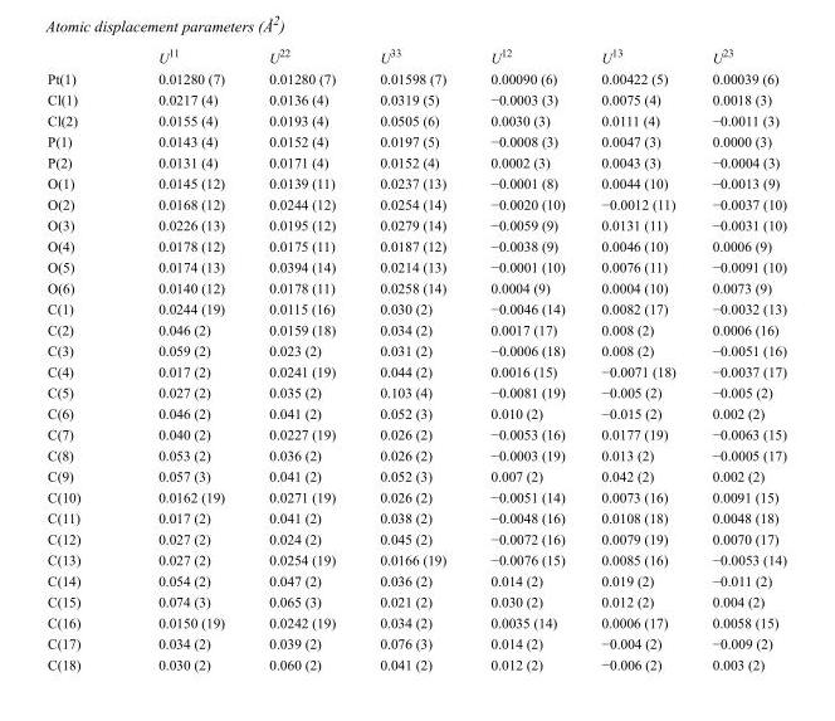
<table><thead><tr><td></td><td>U<sup>11</sup></td><td>U<sup>22</sup></td><td>U<sup>33</sup></td><td>U<sup>12</sup></td><td>U<sup>13</sup></td><td>U<sup>23</sup></td></tr></thead><tbody><tr><td>Pt(1)</td><td>0.01280 (7)</td><td>0.01280 (7)</td><td>0.01598 (7)</td><td>0.00090 (6)</td><td>0.00422 (5)</td><td>0.00039 (6)</td></tr><tr><td>Cl(1)</td><td>0.0217 (4)</td><td>0.0136 (4)</td><td>0.0319 (5)</td><td>−0.0003 (3)</td><td>0.0075 (4)</td><td>0.0018 (3)</td></tr><tr><td>Cl(2)</td><td>0.0155 (4)</td><td>0.0193 (4)</td><td>0.0505 (6)</td><td>0.0030 (3)</td><td>0.0111 (4)</td><td>−0.0011 (3)</td></tr><tr><td>P(1)</td><td>0.0143 (4)</td><td>0.0152 (4)</td><td>0.0197 (5)</td><td>−0.0008 (3)</td><td>0.0047 (3)</td><td>0.0000 (3)</td></tr><tr><td>P(2)</td><td>0.0131 (4)</td><td>0.0171 (4)</td><td>0.0152 (4)</td><td>0.0002 (3)</td><td>0.0043 (3)</td><td>−0.0004 (3)</td></tr><tr><td>O(1)</td><td>0.0145 (12)</td><td>0.0139 (11)</td><td>0.0237 (13)</td><td>−0.0001 (8)</td><td>0.0044 (10)</td><td>−0.0013 (9)</td></tr><tr><td>O(2)</td><td>0.0168 (12)</td><td>0.0244 (12)</td><td>0.0254 (14)</td><td>−0.0020 (10)</td><td>−0.0012 (11)</td><td>−0.0037 (10)</td></tr><tr><td>O(3)</td><td>0.0226 (13)</td><td>0.0195 (12)</td><td>0.0279 (14)</td><td>−0.0059 (9)</td><td>0.0131 (11)</td><td>−0.0031 (10)</td></tr><tr><td>O(4)</td><td>0.0178 (12)</td><td>0.0175 (11)</td><td>0.0187 (12)</td><td>−0.0038 (9)</td><td>0.0046 (10)</td><td>0.0006 (9)</td></tr><tr><td>O(5)</td><td>0.0174 (13)</td><td>0.0394 (14)</td><td>0.0214 (13)</td><td>−0.0001 (10)</td><td>0.0076 (11)</td><td>−0.0091 (10)</td></tr><tr><td>O(6)</td><td>0.0140 (12)</td><td>0.0178 (11)</td><td>0.0258 (14)</td><td>0.0004 (9)</td><td>0.0004 (10)</td><td>0.0073 (9)</td></tr><tr><td>C(1)</td><td>0.0244 (19)</td><td>0.0115 (16)</td><td>0.030 (2)</td><td>−0.0046 (14)</td><td>0.0082 (17)</td><td>−0.0032 (13)</td></tr><tr><td>C(2)</td><td>0.046 (2)</td><td>0.0159 (18)</td><td>0.034 (2)</td><td>0.0017 (17)</td><td>0.008 (2)</td><td>0.0006 (16)</td></tr><tr><td>C(3)</td><td>0.059 (2)</td><td>0.023 (2)</td><td>0.031 (2)</td><td>−0.0006 (18)</td><td>0.008 (2)</td><td>−0.0051 (16)</td></tr><tr><td>C(4)</td><td>0.017 (2)</td><td>0.0241 (19)</td><td>0.044 (2)</td><td>0.0016 (15)</td><td>−0.0071 (18)</td><td>−0.0037 (17)</td></tr><tr><td>C(5)</td><td>0.027 (2)</td><td>0.035 (2)</td><td>0.103 (4)</td><td>−0.0081 (19)</td><td>−0.005 (2)</td><td>−0.005 (2)</td></tr><tr><td>C(6)</td><td>0.046 (2)</td><td>0.041 (2)</td><td>0.052 (3)</td><td>0.010 (2)</td><td>−0.015 (2)</td><td>0.002 (2)</td></tr><tr><td>C(7)</td><td>0.040 (2)</td><td>0.0227 (19)</td><td>0.026 (2)</td><td>−0.0053 (16)</td><td>0.0177 (19)</td><td>−0.0063 (15)</td></tr><tr><td>C(8)</td><td>0.053 (2)</td><td>0.036 (2)</td><td>0.026 (2)</td><td>−0.0003 (19)</td><td>0.013 (2)</td><td>−0.0005 (17)</td></tr><tr><td>C(9)</td><td>0.057 (3)</td><td>0.041 (2)</td><td>0.052 (3)</td><td>0.007 (2)</td><td>0.042 (2)</td><td>0.002 (2)</td></tr><tr><td>C(10)</td><td>0.0162 (19)</td><td>0.0271 (19)</td><td>0.026 (2)</td><td>−0.0051 (14)</td><td>0.0073 (16)</td><td>0.0091 (15)</td></tr><tr><td>C(11)</td><td>0.017 (2)</td><td>0.041 (2)</td><td>0.038 (2)</td><td>−0.0048 (16)</td><td>0.0108 (18)</td><td>0.0048 (18)</td></tr><tr><td>C(12)</td><td>0.027 (2)</td><td>0.024 (2)</td><td>0.045 (2)</td><td>−0.0072 (16)</td><td>0.0079 (19)</td><td>0.0070 (17)</td></tr><tr><td>C(13)</td><td>0.027 (2)</td><td>0.0254 (19)</td><td>0.0166 (19)</td><td>−0.0076 (15)</td><td>0.0085 (16)</td><td>−0.0053 (14)</td></tr><tr><td>C(14)</td><td>0.054 (2)</td><td>0.047 (2)</td><td>0.036 (2)</td><td>0.014 (2)</td><td>0.019 (2)</td><td>−0.011 (2)</td></tr><tr><td>C(15)</td><td>0.074 (3)</td><td>0.065 (3)</td><td>0.021 (2)</td><td>0.030 (2)</td><td>0.012 (2)</td><td>0.004 (2)</td></tr><tr><td>C(16)</td><td>0.0150 (19)</td><td>0.0242 (19)</td><td>0.034 (2)</td><td>0.0035 (14)</td><td>0.0006 (17)</td><td>0.0058 (15)</td></tr><tr><td>C(17)</td><td>0.034 (2)</td><td>0.039 (2)</td><td>0.076 (3)</td><td>0.014 (2)</td><td>−0.004 (2)</td><td>−0.009 (2)</td></tr><tr><td>C(18)</td><td>0.030 (2)</td><td>0.060 (2)</td><td>0.041 (2)</td><td>0.012 (2)</td><td>−0.006 (2)</td><td>0.003 (2)</td></tr></tbody></table>